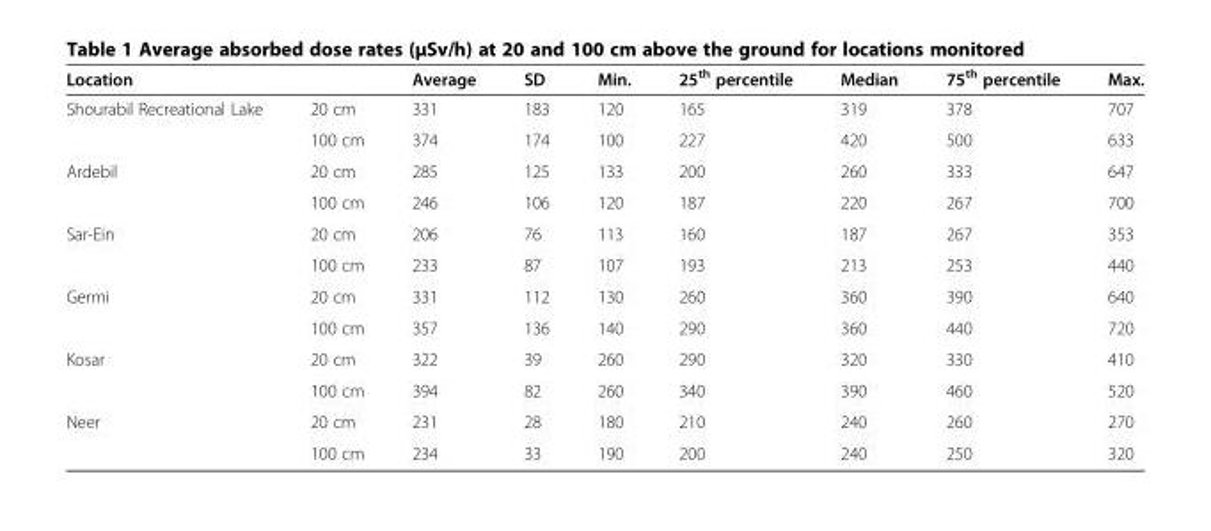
<table><thead><tr><td colspan="2">Location</td><td rowspan="2">Average 331</td><td rowspan="2">SD 183</td><td rowspan="2">Min. 120</td><td rowspan="2">25<sup>th</sup> percentile 165</td><td rowspan="2">Median 319</td><td rowspan="2">75<sup>th</sup> percentile 378</td><td rowspan="2">Max. 707</td></tr><tr><td>Shourabil Recreational Lake</td><td>20 cm</td></tr></thead><tbody><tr><td></td><td>100 cm</td><td>374</td><td>174</td><td>100</td><td>227</td><td>420</td><td>500</td><td>633</td></tr><tr><td rowspan="2">Ardebil</td><td>20 cm</td><td>285</td><td>125</td><td>133</td><td>200</td><td>260</td><td>333</td><td>647</td></tr><tr><td>100 cm</td><td>246</td><td>106</td><td>120</td><td>187</td><td>220</td><td>267</td><td>700</td></tr><tr><td rowspan="2">Sar-Ein</td><td>20 cm</td><td>206</td><td>76</td><td>113</td><td>160</td><td>187</td><td>267</td><td>353</td></tr><tr><td>100 cm</td><td>233</td><td>87</td><td>107</td><td>193</td><td>213</td><td>253</td><td>440</td></tr><tr><td rowspan="2">Germi</td><td>20 cm</td><td>331</td><td>112</td><td>130</td><td>260</td><td>360</td><td>390</td><td>640</td></tr><tr><td>100 cm</td><td>357</td><td>136</td><td>140</td><td>290</td><td>360</td><td>440</td><td>720</td></tr><tr><td rowspan="2">Kosar</td><td>20 cm</td><td>322</td><td>39</td><td>260</td><td>290</td><td>320</td><td>330</td><td>410</td></tr><tr><td>100 cm</td><td>394</td><td>82</td><td>260</td><td>340</td><td>390</td><td>460</td><td>520</td></tr><tr><td rowspan="2">Neer</td><td>20 cm</td><td>231</td><td>28</td><td>180</td><td>210</td><td>240</td><td>260</td><td>270</td></tr><tr><td>100 cm</td><td>234</td><td>33</td><td>190</td><td>200</td><td>240</td><td>250</td><td>320</td></tr></tbody></table>